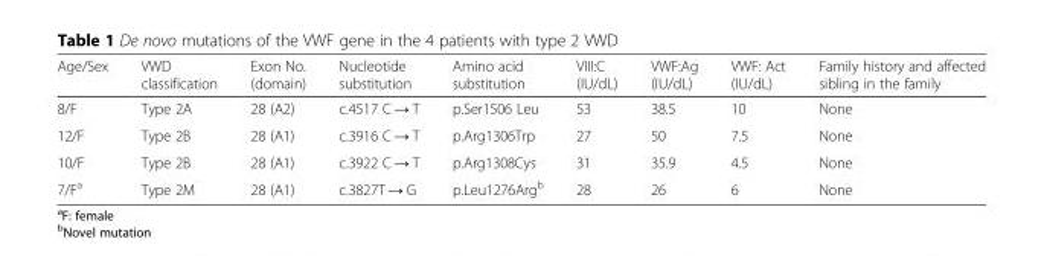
<table><thead><tr><td>Age/Sex</td><td>VWD classification</td><td>Exon No. (domain)</td><td>Nucleotide substitution</td><td>Amino acid substitution</td><td>VIII:C (IU/dL)</td><td>VWF:Ag (IU/dL)</td><td>VWF: Act (IU/dL)</td><td>Family history and affected sibling in the family</td></tr></thead><tbody><tr><td>8/F</td><td>Type 2A</td><td>28 (A2)</td><td>c.4517 C → T</td><td>p.Ser1506 Leu</td><td>53</td><td>38.5</td><td>10</td><td>None</td></tr><tr><td>12/F</td><td>Type 2B</td><td>28 (A1)</td><td>c.3916 C → T</td><td>p.Arg1306Trp</td><td>27</td><td>50</td><td>7.5</td><td>None</td></tr><tr><td>10/F</td><td>Type 2B</td><td>28 (A1)</td><td>c.3922 C → T</td><td>p.Arg1308Cys</td><td>31</td><td>35.9</td><td>4.5</td><td>None</td></tr><tr><td>7/F<sup>a</sup></td><td>Type 2M</td><td>28 (A1)</td><td>c.3827T → G</td><td>p.Leu1276Arg<sup>b</sup></td><td>28</td><td>26</td><td>6</td><td>None</td></tr></tbody></table>